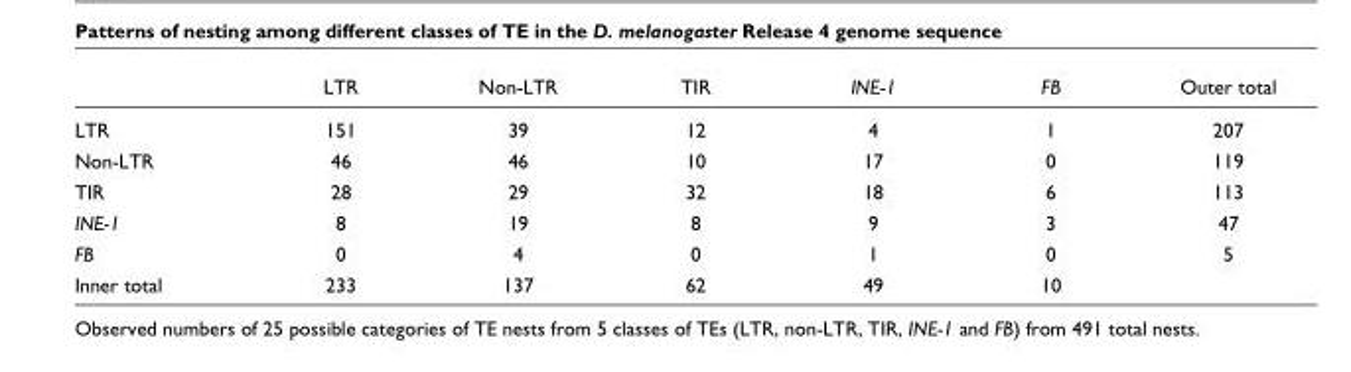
<table><thead><tr><td></td><td>LTR</td><td>Non-LTR</td><td>TIR</td><td>INE-1</td><td>FB</td><td>Outer total</td></tr></thead><tbody><tr><td>LTR</td><td>151</td><td>39</td><td>12</td><td>4</td><td>1</td><td>207</td></tr><tr><td>Non-LTR</td><td>46</td><td>46</td><td>10</td><td>17</td><td>0</td><td>119</td></tr><tr><td>TIR</td><td>28</td><td>29</td><td>32</td><td>18</td><td>6</td><td>113</td></tr><tr><td>INE-1</td><td>8</td><td>19</td><td>8</td><td>9</td><td>3</td><td>47</td></tr><tr><td>FB</td><td>0</td><td>4</td><td>0</td><td>1</td><td>0</td><td>5</td></tr><tr><td>Inner total</td><td>233</td><td>137</td><td>62</td><td>49</td><td>10</td><td></td></tr></tbody></table>